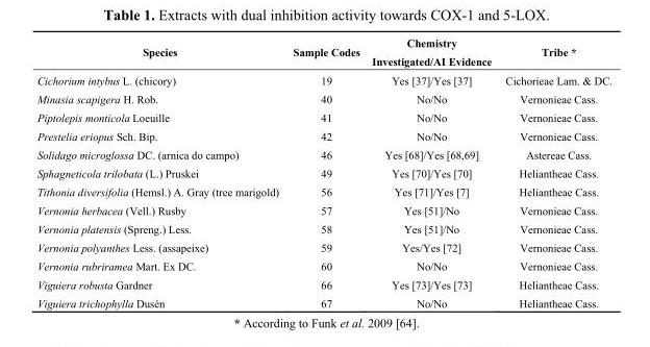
<table><thead><tr><td>Species</td><td>Sample Codes</td><td>Chemistry Investigated/AI Evidence</td><td>Tribe *</td></tr></thead><tbody><tr><td>Cichorium intybus L. (chicory)</td><td>19</td><td>Yes [37]/Yes [37]</td><td>Cichorieae Lam. &amp; DC.</td></tr><tr><td>Minasia scapigera H. Rob.</td><td>40</td><td>No/No</td><td>Vernonieae Cass.</td></tr><tr><td>Piptolepis monticola Loeuille</td><td>41</td><td>No/No</td><td>Vernonieae Cass.</td></tr><tr><td>Prestelia eriopus Sch. Bip.</td><td>42</td><td>No/No</td><td>Vernonieae Cass.</td></tr><tr><td>Solidago microglossa DC. (arnica do campo)</td><td>46</td><td>Yes [68]/Yes [68,69]</td><td>Astereae Cass.</td></tr><tr><td>Sphagneticola trilobata (L.) Pruskei</td><td>49</td><td>Yes [70]/Yes [70]</td><td>Heliantheae Cass.</td></tr><tr><td>Tithonia diversifolia (Hemsl.) A. Gray (tree marigold)</td><td>56</td><td>Yes [71]/Yes [7]</td><td>Heliantheae Cass.</td></tr><tr><td>Vernonia herbacea (Vell.) Rusby</td><td>57</td><td>Yes [51]/No</td><td>Vernonieae Cass.</td></tr><tr><td>Vernonia platensis (Spreng.) Less.</td><td>58</td><td>Yes [51]/No</td><td>Vernonieae Cass.</td></tr><tr><td>Vernonia polyanthes Less. (assapeixe)</td><td>59</td><td>Yes/Yes [72]</td><td>Vernonieae Cass.</td></tr><tr><td>Vernonia rubriramea Mart. Ex DC.</td><td>60</td><td>No/No</td><td>Vernonieae Cass.</td></tr><tr><td>Viguiera robusta Gardner</td><td>66</td><td>Yes [73]/Yes [73]</td><td>Heliantheae Cass.</td></tr><tr><td>Viguiera trichophylla Dusén</td><td>67</td><td>No/No</td><td>Heliantheae Cass.</td></tr></tbody></table>